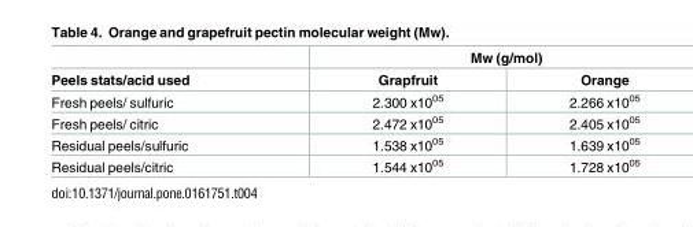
<table><thead><tr><td rowspan="2">Peels stats/acid used</td><td colspan="2">Mw (g/mol)</td></tr><tr><td>Grapfruit</td><td>Orange</td></tr></thead><tbody><tr><td>Fresh peels/ sulfuric</td><td>2.300 x10<sup>05</sup></td><td>2.266 x10<sup>05</sup></td></tr><tr><td>Fresh peels/ citric</td><td>2.472 x10<sup>05</sup></td><td>2.405 x10<sup>05</sup></td></tr><tr><td>Residual peels/sulfuric</td><td>1.538 x10<sup>05</sup></td><td>1.639 x10<sup>05</sup></td></tr><tr><td>Residual peels/citric</td><td>1.544 x10<sup>05</sup></td><td>1.728 x10<sup>05</sup></td></tr></tbody></table>